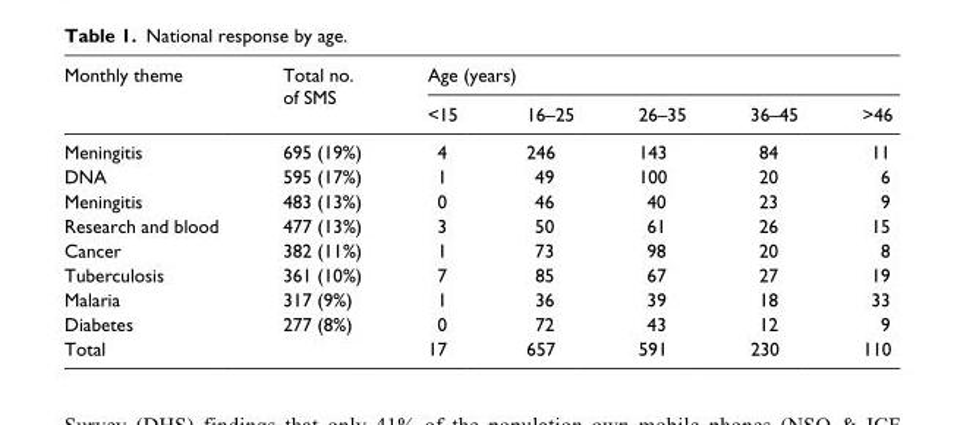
<table><thead><tr><td rowspan="2">Monthly theme</td><td rowspan="2">Total no. of SMS</td><td colspan="5">Age (years)</td></tr><tr><td>&lt;15</td><td>16–25</td><td>26–35</td><td>36–45</td><td>&gt;46</td></tr></thead><tbody><tr><td>Meningitis</td><td>695 (19%)</td><td>4</td><td>246</td><td>143</td><td>84</td><td>11</td></tr><tr><td>DNA</td><td>595 (17%)</td><td>1</td><td>49</td><td>100</td><td>20</td><td>6</td></tr><tr><td>Meningitis</td><td>483 (13%)</td><td>0</td><td>46</td><td>40</td><td>23</td><td>9</td></tr><tr><td>Research and blood</td><td>477 (13%)</td><td>3</td><td>50</td><td>61</td><td>26</td><td>15</td></tr><tr><td>Cancer</td><td>382 (11%)</td><td>1</td><td>73</td><td>98</td><td>20</td><td>8</td></tr><tr><td>Tuberculosis</td><td>361 (10%)</td><td>7</td><td>85</td><td>67</td><td>27</td><td>19</td></tr><tr><td>Malaria</td><td>317 (9%)</td><td>1</td><td>36</td><td>39</td><td>18</td><td>33</td></tr><tr><td>Diabetes</td><td>277 (8%)</td><td>0</td><td>72</td><td>43</td><td>12</td><td>9</td></tr><tr><td>Total</td><td></td><td>17</td><td>657</td><td>591</td><td>230</td><td>110</td></tr></tbody></table>